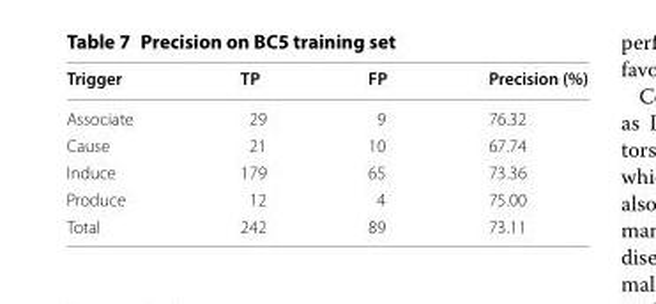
<table><thead><tr><td>Trigger</td><td>TP</td><td>FP</td><td>Precision (%)</td></tr></thead><tbody><tr><td>Associate</td><td>29</td><td>9</td><td>76.32</td></tr><tr><td>Cause</td><td>21</td><td>10</td><td>67.74</td></tr><tr><td>Induce</td><td>179</td><td>65</td><td>73.36</td></tr><tr><td>Produce</td><td>12</td><td>4</td><td>75.00</td></tr><tr><td>Total</td><td>242</td><td>89</td><td>73.11</td></tr></tbody></table>